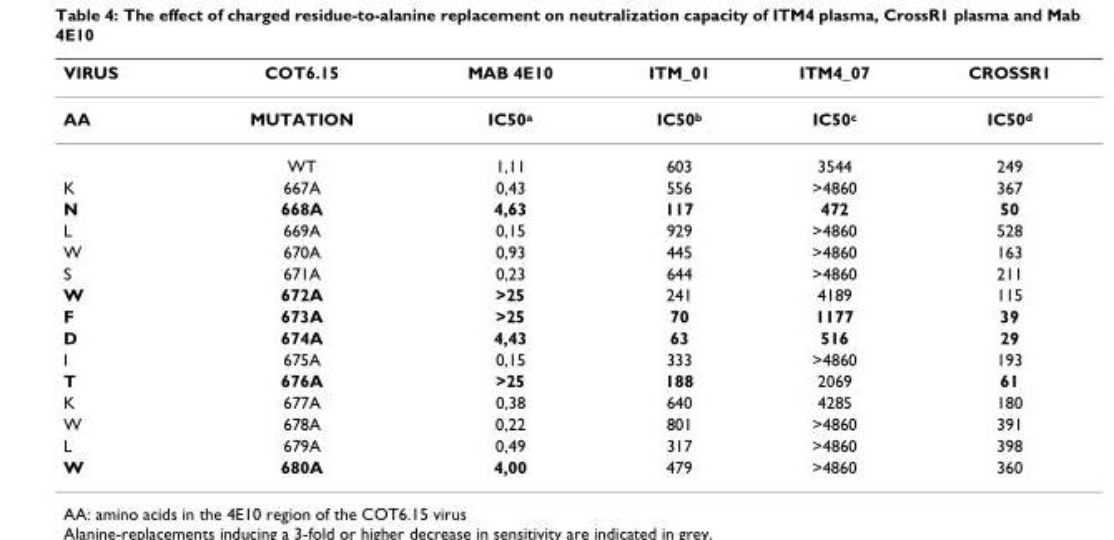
<table><thead><tr><td>VIRUS</td><td>COT6.15</td><td>MAB 4E10</td><td>ITM_01</td><td>ITM4_07</td><td>CROSSR1</td></tr></thead><tbody><tr><td rowspan="2">AA</td><td>MUTATION</td><td>IC50<sup>a</sup></td><td>IC50<sup>b</sup></td><td>IC50<sup>c</sup></td><td>IC50<sup>d</sup></td></tr><tr><td>WT</td><td>1,11</td><td>603</td><td>3544</td><td>249</td></tr><tr><td>K</td><td>667A</td><td>0,43</td><td>556</td><td>&gt;4860</td><td>367</td></tr><tr><td>N</td><td>668A</td><td>4,63</td><td>117</td><td>472</td><td>50</td></tr><tr><td>L</td><td>669A</td><td>0,15</td><td>929</td><td>&gt;4860</td><td>528</td></tr><tr><td>W</td><td>670A</td><td>0,93</td><td>445</td><td>&gt;4860</td><td>163</td></tr><tr><td>S</td><td>671A</td><td>0,23</td><td>644</td><td>&gt;4860</td><td>211</td></tr><tr><td>W</td><td>672A</td><td>&gt;25</td><td>241</td><td>4189</td><td>115</td></tr><tr><td>F</td><td>673A</td><td>&gt;25</td><td>70</td><td>1177</td><td>39</td></tr><tr><td>D</td><td>674A</td><td>4,43</td><td>63</td><td>516</td><td>29</td></tr><tr><td>I</td><td>675A</td><td>0,15</td><td>333</td><td>&gt;4860</td><td>193</td></tr><tr><td>T</td><td>676A</td><td>&gt;25</td><td>188</td><td>2069</td><td>61</td></tr><tr><td>K</td><td>677A</td><td>0,38</td><td>640</td><td>4285</td><td>180</td></tr><tr><td>W</td><td>678A</td><td>0,22</td><td>801</td><td>&gt;4860</td><td>391</td></tr><tr><td>L</td><td>679A</td><td>0,49</td><td>317</td><td>&gt;4860</td><td>398</td></tr><tr><td>W</td><td>680A</td><td>4,00</td><td>479</td><td>&gt;4860</td><td>360</td></tr></tbody></table>